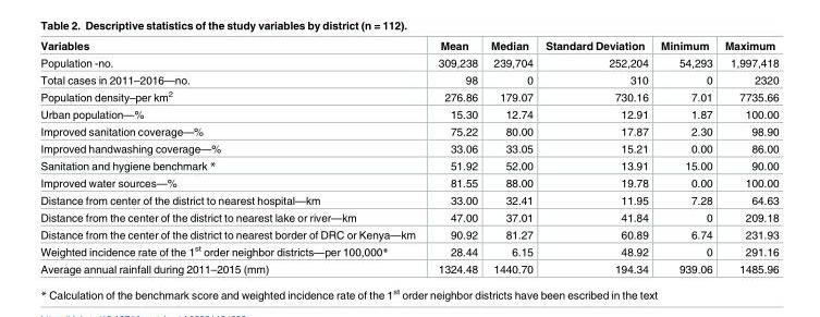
<table><thead><tr><td>Variables</td><td>Mean</td><td>Median</td><td>Standard Deviation</td><td>Minimum</td><td>Maximum</td></tr></thead><tbody><tr><td>Population -no.</td><td>309,238</td><td>239,704</td><td>252,204</td><td>54,293</td><td>1,997,418</td></tr><tr><td>Total cases in 2011–2016—no.</td><td>98</td><td>0</td><td>310</td><td>0</td><td>2320</td></tr><tr><td>Population density–per km<sup>2</sup></td><td>276.86</td><td>179.07</td><td>730.16</td><td>7.01</td><td>7735.66</td></tr><tr><td>Urban population—%</td><td>15.30</td><td>12.74</td><td>12.91</td><td>1.87</td><td>100.00</td></tr><tr><td>Improved sanitation coverage—%</td><td>75.22</td><td>80.00</td><td>17.87</td><td>2.30</td><td>98.90</td></tr><tr><td>Improved handwashing coverage—%</td><td>33.06</td><td>33.05</td><td>15.21</td><td>0.00</td><td>86.00</td></tr><tr><td>Sanitation and hygiene benchmark *</td><td>51.92</td><td>52.00</td><td>13.91</td><td>15.00</td><td>90.00</td></tr><tr><td>Improved water sources—%</td><td>81.55</td><td>88.00</td><td>19.78</td><td>0.00</td><td>100.00</td></tr><tr><td>Distance from center of the district to nearest hospital—km</td><td>33.00</td><td>32.41</td><td>11.95</td><td>7.28</td><td>64.63</td></tr><tr><td>Distance from the center of the district to nearest lake or river—km</td><td>47.00</td><td>37.01</td><td>41.84</td><td>0</td><td>209.18</td></tr><tr><td>Distance from the center of the district to nearest border of DRC or Kenya—km</td><td>90.92</td><td>81.27</td><td>60.89</td><td>6.74</td><td>231.93</td></tr><tr><td>Weighted incidence rate of the 1<sup>st</sup> order neighbor districts—per 100,000*</td><td>28.44</td><td>6.15</td><td>48.92</td><td>0</td><td>291.16</td></tr><tr><td>Average annual rainfall during 2011–2015 (mm)</td><td>1324.48</td><td>1440.70</td><td>194.34</td><td>939.06</td><td>1485.96</td></tr></tbody></table>